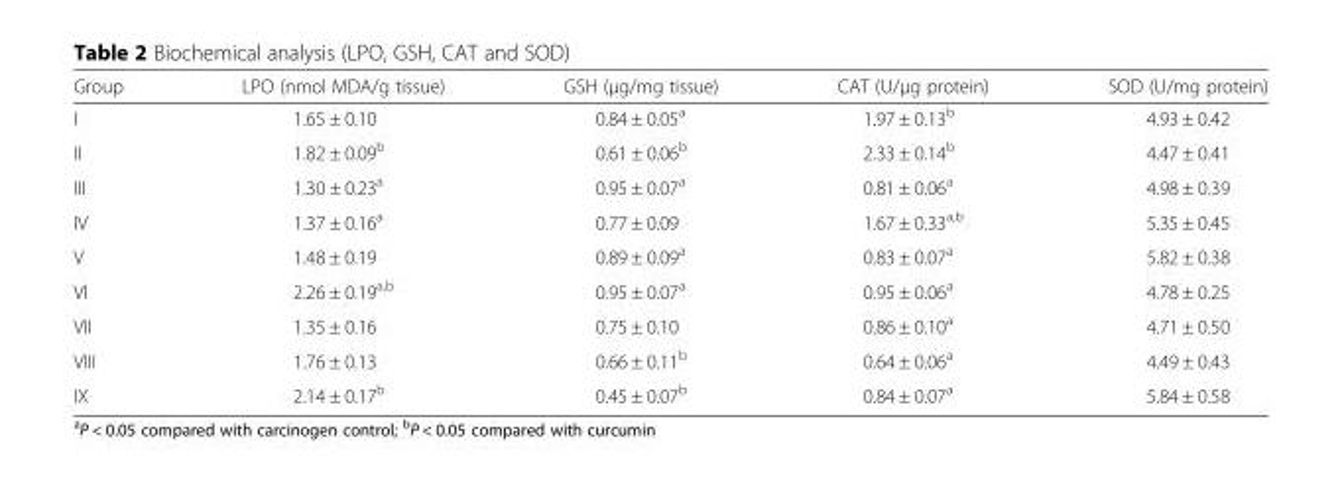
<table><thead><tr><td>Group</td><td>LPO (nmol MDA/g tissue)</td><td>GSH (μg/mg tissue)</td><td>CAT (U/μg protein)</td><td>SOD (U/mg protein)</td></tr></thead><tbody><tr><td>I</td><td>1.65 ± 0.10</td><td>0.84 ± 0.05<sup>a</sup></td><td>1.97 ± 0.13<sup>b</sup></td><td>4.93 ± 0.42</td></tr><tr><td>II</td><td>1.82 ± 0.09<sup>b</sup></td><td>0.61 ± 0.06<sup>b</sup></td><td>2.33 ± 0.14<sup>b</sup></td><td>4.47 ± 0.41</td></tr><tr><td>III</td><td>1.30 ± 0.23<sup>a</sup></td><td>0.95 ± 0.07<sup>a</sup></td><td>0.81 ± 0.06<sup>a</sup></td><td>4.98 ± 0.39</td></tr><tr><td>IV</td><td>1.37 ± 0.16<sup>a</sup></td><td>0.77 ± 0.09</td><td>1.67 ± 0.33<sup>a,b</sup></td><td>5.35 ± 0.45</td></tr><tr><td>V</td><td>1.48 ± 0.19</td><td>0.89 ± 0.09<sup>a</sup></td><td>0.83 ± 0.07<sup>a</sup></td><td>5.82 ± 0.38</td></tr><tr><td>VI</td><td>2.26 ± 0.19<sup>a,b</sup></td><td>0.95 ± 0.07<sup>a</sup></td><td>0.95 ± 0.06<sup>a</sup></td><td>4.78 ± 0.25</td></tr><tr><td>VII</td><td>1.35 ± 0.16</td><td>0.75 ± 0.10</td><td>0.86 ± 0.10<sup>a</sup></td><td>4.71 ± 0.50</td></tr><tr><td>VIII</td><td>1.76 ± 0.13</td><td>0.66 ± 0.11<sup>b</sup></td><td>0.64 ± 0.06<sup>a</sup></td><td>4.49 ± 0.43</td></tr><tr><td>IX</td><td>2.14 ± 0.17<sup>b</sup></td><td>0.45 ± 0.07<sup>b</sup></td><td>0.84 ± 0.07<sup>a</sup></td><td>5.84 ± 0.58</td></tr></tbody></table>